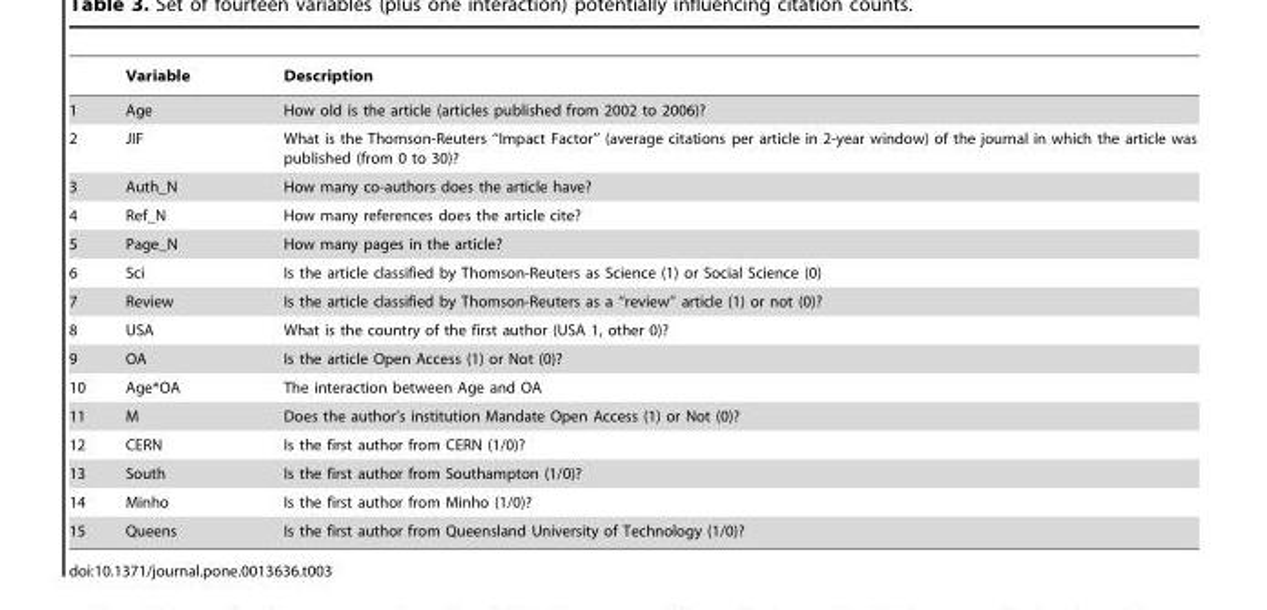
<table><thead><tr><td></td><td>Variable</td><td>Description</td></tr></thead><tbody><tr><td>1</td><td>Age</td><td>How old is the article (articles published from 2002 to 2006)?</td></tr><tr><td>2</td><td>JIF</td><td>What is the Thomson-Reuters ‘‘Impact Factor’’ (average citations per article in 2-year window) of the journal in which the article was published (from 0 to 30)?</td></tr><tr><td>3</td><td>Auth_N</td><td>How many co-authors does the article have?</td></tr><tr><td>4</td><td>Ref_N</td><td>How many references does the article cite?</td></tr><tr><td>5</td><td>Page_N</td><td>How many pages in the article?</td></tr><tr><td>6</td><td>Sci</td><td>Is the article classified by Thomson-Reuters as Science (1) or Social Science (0)</td></tr><tr><td>7</td><td>Review</td><td>Is the article classified by Thomson-Reuters as a ‘‘review’’ article (1) or not (0)?</td></tr><tr><td>8</td><td>USA</td><td>What is the country of the first author (USA 1, other 0)?</td></tr><tr><td>9</td><td>OA</td><td>Is the article Open Access (1) or Not (0)?</td></tr><tr><td>10</td><td>Age*OA</td><td>The interaction between Age and OA</td></tr><tr><td>11</td><td>M</td><td>Does the author’s institution Mandate Open Access (1) or Not (0)?</td></tr><tr><td>12</td><td>CERN</td><td>Is the first author from CERN (1/0)?</td></tr><tr><td>13</td><td>South</td><td>Is the first author from Southampton (1/0)?</td></tr><tr><td>14</td><td>Minho</td><td>Is the first author from Minho (1/0)?</td></tr><tr><td>15</td><td>Queens</td><td>Is the first author from Queensland University of Technology (1/0)?</td></tr></tbody></table>